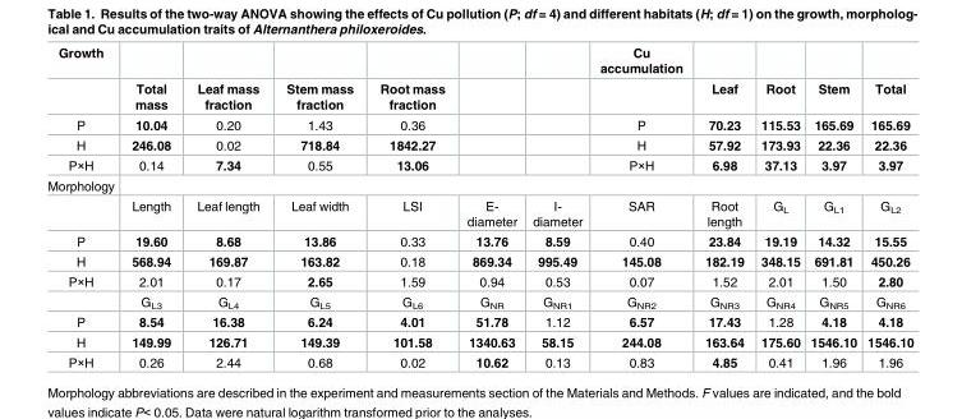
<table><thead><tr><td rowspan="2">Growth</td><td rowspan="2">Total mass</td><td rowspan="2">Leaf mass fraction</td><td rowspan="2">Stem mass fraction</td><td rowspan="2">Root mass fraction</td><td rowspan="2"></td><td rowspan="2"></td><td rowspan="2">Cu accumulation</td><td rowspan="2">Leaf</td><td rowspan="2">Root</td><td rowspan="2">Stem</td><td rowspan="2">Total</td></tr><tr></tr></thead><tbody><tr><td>P</td><td>10.04</td><td>0.20</td><td>1.43</td><td>0.36</td><td></td><td></td><td>P</td><td>70.23</td><td>115.53</td><td>165.69</td><td>165.69</td></tr><tr><td>H</td><td>246.08</td><td>0.02</td><td>718.84</td><td>1842.27</td><td></td><td></td><td>H</td><td>57.92</td><td>173.93</td><td>22.36</td><td>22.36</td></tr><tr><td>P×H</td><td>0.14</td><td>7.34</td><td>0.55</td><td>13.06</td><td></td><td></td><td>P×H</td><td>6.98</td><td>37.13</td><td>3.97</td><td>3.97</td></tr><tr><td colspan="12">Morphology</td></tr><tr><td></td><td>Length</td><td>Leaf length</td><td>Leaf width</td><td>LSI</td><td>E- diameter</td><td>I- diameter</td><td>SAR</td><td>Root length</td><td>G<sub>L</sub></td><td>G<sub>L1</sub></td><td>G<sub>L2</sub></td></tr><tr><td>P</td><td>19.60</td><td>8.68</td><td>13.86</td><td>0.33</td><td>13.76</td><td>8.59</td><td>0.40</td><td>23.84</td><td>19.19</td><td>14.32</td><td>15.55</td></tr><tr><td>H</td><td>568.94</td><td>169.87</td><td>163.82</td><td>0.18</td><td>869.34</td><td>995.49</td><td>145.08</td><td>182.19</td><td>348.15</td><td>691.81</td><td>450.26</td></tr><tr><td rowspan="2">P×H</td><td>2.01</td><td>0.17</td><td>2.65</td><td>1.59</td><td>0.94</td><td>0.53</td><td>0.07</td><td>1.52</td><td>2.01</td><td>1.50</td><td>2.80</td></tr><tr><td>G<sub>L3</sub></td><td>G<sub>L4</sub></td><td>G<sub>L5</sub></td><td>G<sub>L6</sub></td><td>G<sub>NR</sub></td><td>G<sub>NR1</sub></td><td>G<sub>NR2</sub></td><td>G<sub>NR3</sub></td><td>G<sub>NR4</sub></td><td>G<sub>NR5</sub></td><td>G<sub>NR6</sub></td></tr><tr><td>P</td><td>8.54</td><td>16.38</td><td>6.24</td><td>4.01</td><td>51.78</td><td>1.12</td><td>6.57</td><td>17.43</td><td>1.28</td><td>4.18</td><td>4.18</td></tr><tr><td>H</td><td>149.99</td><td>126.71</td><td>149.39</td><td>101.58</td><td>1340.63</td><td>58.15</td><td>244.08</td><td>163.64</td><td>175.60</td><td>1546.10</td><td>1546.10</td></tr><tr><td>P×H</td><td>0.26</td><td>2.44</td><td>0.68</td><td>0.02</td><td>10.62</td><td>0.13</td><td>0.83</td><td>4.85</td><td>0.41</td><td>1.96</td><td>1.96</td></tr></tbody></table>